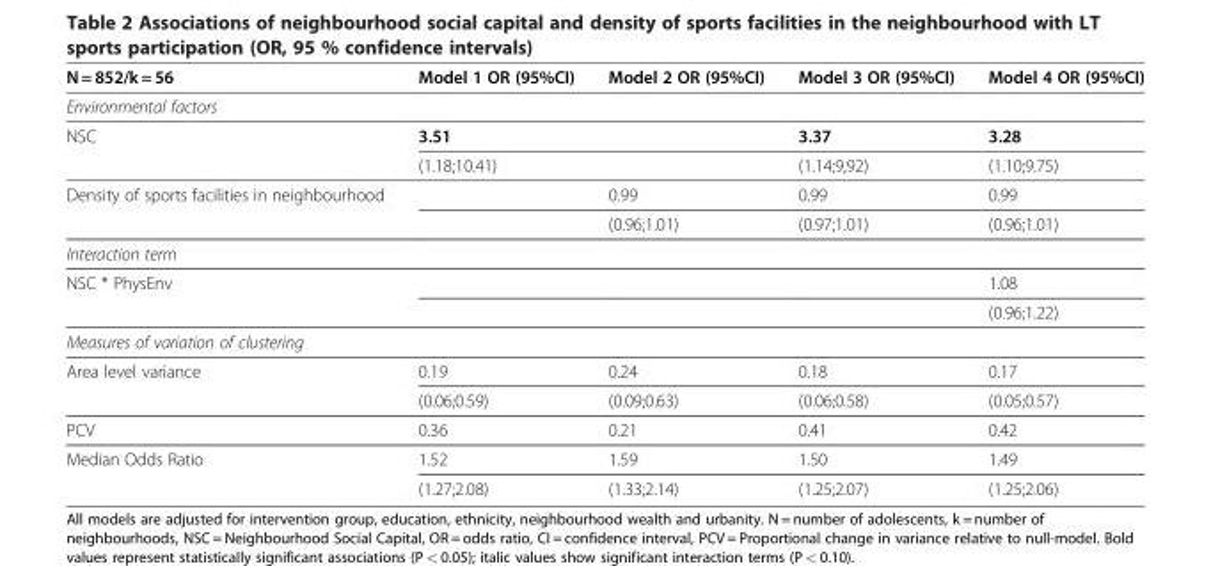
<table><thead><tr><td>N = 852/k = 56</td><td>Model 1 OR (95%CI)</td><td>Model 2 OR (95%CI)</td><td>Model 3 OR (95%CI)</td><td>Model 4 OR (95%CI)</td></tr></thead><tbody><tr><td colspan="5">Environmental factors</td></tr><tr><td rowspan="2">NSC</td><td>3.51</td><td></td><td>3.37</td><td>3.28</td></tr><tr><td>(1.18;10.41)</td><td></td><td>(1.14;9,92)</td><td>(1.10;9.75)</td></tr><tr><td rowspan="2">Density of sports facilities in neighbourhood</td><td></td><td>0.99</td><td>0.99</td><td>0.99</td></tr><tr><td></td><td>(0.96;1.01)</td><td>(0.97;1.01)</td><td>(0.96;1.01)</td></tr><tr><td colspan="5">Interaction term</td></tr><tr><td rowspan="2">NSC * PhysEnv</td><td></td><td></td><td></td><td>1.08</td></tr><tr><td></td><td></td><td></td><td>(0.96;1.22)</td></tr><tr><td colspan="5">Measures of variation of clustering</td></tr><tr><td rowspan="2">Area level variance</td><td>0.19</td><td>0.24</td><td>0.18</td><td>0.17</td></tr><tr><td>(0.06;0.59)</td><td>(0.09;0.63)</td><td>(0.06;0.58)</td><td>(0.05;0.57)</td></tr><tr><td>PCV</td><td>0.36</td><td>0.21</td><td>0.41</td><td>0.42</td></tr><tr><td rowspan="2">Median Odds Ratio</td><td>1.52</td><td>1.59</td><td>1.50</td><td>1.49</td></tr><tr><td>(1.27;2.08)</td><td>(1.33;2.14)</td><td>(1.25;2.07)</td><td>(1.25;2.06)</td></tr></tbody></table>